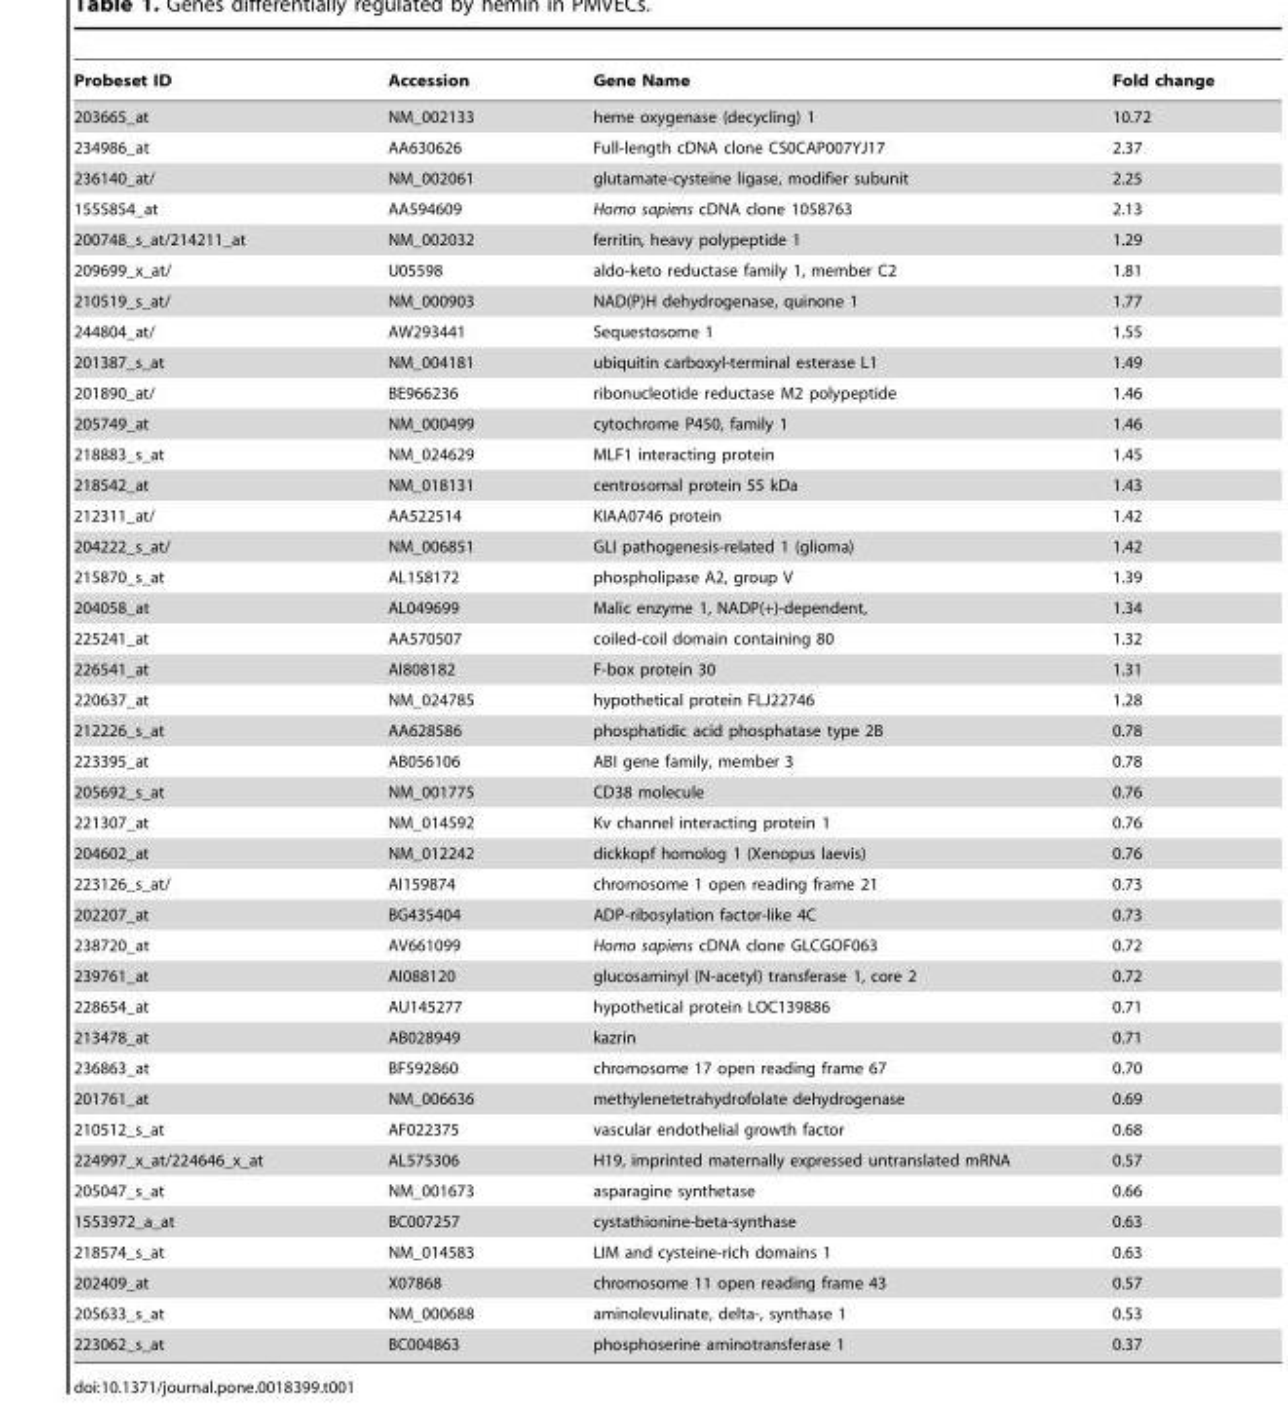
<table><thead><tr><td>Probeset ID</td><td>Accession</td><td>Gene Name</td><td>Fold change</td></tr></thead><tbody><tr><td>203665_at</td><td>NM_002133</td><td>heme oxygenase (decycling) 1</td><td>10.72</td></tr><tr><td>234986_at</td><td>AA630626</td><td>Full-length cDNA clone CS0CAP007YJ17</td><td>2.37</td></tr><tr><td>236140_at/</td><td>NM_002061</td><td>glutamate-cysteine ligase, modifier subunit</td><td>2.25</td></tr><tr><td>1555854_at</td><td>AA594609</td><td>Homo sapiens cDNA clone 1058763</td><td>2.13</td></tr><tr><td>200748_s_at/214211_at</td><td>NM_002032</td><td>ferritin, heavy polypeptide 1</td><td>1.29</td></tr><tr><td>209699_x_at/</td><td>U05598</td><td>aldo-keto reductase family 1, member C2</td><td>1.81</td></tr><tr><td>210519_s_at/</td><td>NM_000903</td><td>NAD(P)H dehydrogenase, quinone 1</td><td>1.77</td></tr><tr><td>244804_at/</td><td>AW293441</td><td>Sequestosome 1</td><td>1.55</td></tr><tr><td>201387_s_at</td><td>NM_004181</td><td>ubiquitin carboxyl-terminal esterase L1</td><td>1.49</td></tr><tr><td>201890_at/</td><td>BE966236</td><td>ribonucleotide reductase M2 polypeptide</td><td>1.46</td></tr><tr><td>205749_at</td><td>NM_000499</td><td>cytochrome P450, family 1</td><td>1.46</td></tr><tr><td>218883_s_at</td><td>NM_024629</td><td>MLF1 interacting protein</td><td>1.45</td></tr><tr><td>218542_at</td><td>NM_018131</td><td>centrosomal protein 55 kDa</td><td>1.43</td></tr><tr><td>212311_at/</td><td>AA522514</td><td>KIAA0746 protein</td><td>1.42</td></tr><tr><td>204222_s_at/</td><td>NM_006851</td><td>GLI pathogenesis-related 1 (glioma)</td><td>1.42</td></tr><tr><td>215870_s_at</td><td>AL158172</td><td>phospholipase A2, group V</td><td>1.39</td></tr><tr><td>204058_at</td><td>AL049699</td><td>Malic enzyme 1, NADP(+)-dependent,</td><td>1.34</td></tr><tr><td>225241_at</td><td>AA570507</td><td>coiled-coil domain containing 80</td><td>1.32</td></tr><tr><td>226541_at</td><td>AI808182</td><td>F-box protein 30</td><td>1.31</td></tr><tr><td>220637_at</td><td>NM_024785</td><td>hypothetical protein FLJ22746</td><td>1.28</td></tr><tr><td>212226_s_at</td><td>AA628586</td><td>phosphatidic acid phosphatase type 2B</td><td>0.78</td></tr><tr><td>223395_at</td><td>AB056106</td><td>ABI gene family, member 3</td><td>0.78</td></tr><tr><td>205692_s_at</td><td>NM_001775</td><td>CD38 molecule</td><td>0.76</td></tr><tr><td>221307_at</td><td>NM_014592</td><td>Kv channel interacting protein 1</td><td>0.76</td></tr><tr><td>204602_at</td><td>NM_012242</td><td>dickkopf homolog 1 (Xenopus laevis)</td><td>0.76</td></tr><tr><td>223126_s_at/</td><td>AI159874</td><td>chromosome 1 open reading frame 21</td><td>0.73</td></tr><tr><td>202207_at</td><td>BG435404</td><td>ADP-ribosylation factor-like 4C</td><td>0.73</td></tr><tr><td>238720_at</td><td>AV661099</td><td>Homo sapiens cDNA clone GLCGOF063</td><td>0.72</td></tr><tr><td>239761_at</td><td>AI088120</td><td>glucosaminyl (N-acetyl) transferase 1, core 2</td><td>0.72</td></tr><tr><td>228654_at</td><td>AU145277</td><td>hypothetical protein LOC139886</td><td>0.71</td></tr><tr><td>213478_at</td><td>AB028949</td><td>kazrin</td><td>0.71</td></tr><tr><td>236863_at</td><td>BF592860</td><td>chromosome 17 open reading frame 67</td><td>0.70</td></tr><tr><td>201761_at</td><td>NM_006636</td><td>methylenetetrahydrofolate dehydrogenase</td><td>0.69</td></tr><tr><td>210512_s_at</td><td>AF022375</td><td>vascular endothelial growth factor</td><td>0.68</td></tr><tr><td>224997_x_at/224646_x_at</td><td>AL575306</td><td>H19, imprinted maternally expressed untranslated mRNA</td><td>0.57</td></tr><tr><td>205047_s_at</td><td>NM_001673</td><td>asparagine synthetase</td><td>0.66</td></tr><tr><td>1553972_a_at</td><td>BC007257</td><td>cystathionine-beta-synthase</td><td>0.63</td></tr><tr><td>218574_s_at</td><td>NM_014583</td><td>LIM and cysteine-rich domains 1</td><td>0.63</td></tr><tr><td>202409_at</td><td>X07868</td><td>chromosome 11 open reading frame 43</td><td>0.57</td></tr><tr><td>205633_s_at</td><td>NM_000688</td><td>aminolevulinate, delta-, synthase 1</td><td>0.53</td></tr><tr><td>223062_s_at</td><td>BC004863</td><td>phosphoserine aminotransferase 1</td><td>0.37</td></tr></tbody></table>